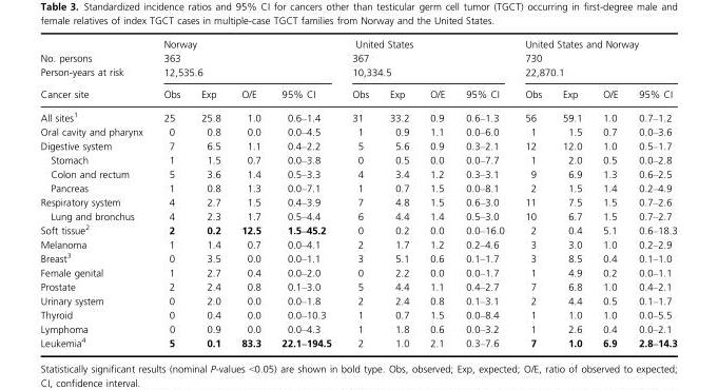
<table><thead><tr><td rowspan="4">No. persons Person-years at risk Cancer site</td><td rowspan="3" colspan="4">Norway 363 12,535.6</td><td rowspan="3" colspan="4">United States 367 10,334.5</td><td rowspan="3" colspan="4">United States and Norway 730 22,870.1</td></tr><tr></tr><tr></tr><tr><td>Obs</td><td>Exp</td><td>O/E</td><td>95% CI</td><td>Obs</td><td>Exp</td><td>O/E</td><td>95% CI</td><td>Obs</td><td>Exp</td><td>O/E</td><td>95% CI</td></tr></thead><tbody><tr><td>All sites<sup>1</sup></td><td>25</td><td>25.8</td><td>1.0</td><td>0.6–1.4</td><td>31</td><td>33.2</td><td>0.9</td><td>0.6–1.3</td><td>56</td><td>59.1</td><td>1.0</td><td>0.7–1.2</td></tr><tr><td>Oral cavity and pharynx</td><td>0</td><td>0.8</td><td>0.0</td><td>0.0–4.5</td><td>1</td><td>0.9</td><td>1.1</td><td>0.0–6.0</td><td>1</td><td>1.5</td><td>0.7</td><td>0.0–3.6</td></tr><tr><td>Digestive system</td><td>7</td><td>6.5</td><td>1.1</td><td>0.4–2.2</td><td>5</td><td>5.6</td><td>0.9</td><td>0.3–2.1</td><td>12</td><td>12.0</td><td>1.0</td><td>0.5–1.7</td></tr><tr><td>Stomach</td><td>1</td><td>1.5</td><td>0.7</td><td>0.0–3.8</td><td>0</td><td>0.5</td><td>0.0</td><td>0.0–7.7</td><td>1</td><td>2.0</td><td>0.5</td><td>0.0–2.8</td></tr><tr><td>Colon and rectum</td><td>5</td><td>3.6</td><td>1.4</td><td>0.5–3.3</td><td>4</td><td>3.4</td><td>1.2</td><td>0.3–3.1</td><td>9</td><td>6.9</td><td>1.3</td><td>0.6–2.5</td></tr><tr><td>Pancreas</td><td>1</td><td>0.8</td><td>1.3</td><td>0.0–7.1</td><td>1</td><td>0.7</td><td>1.5</td><td>0.0–8.1</td><td>2</td><td>1.5</td><td>1.4</td><td>0.2–4.9</td></tr><tr><td>Respiratory system</td><td>4</td><td>2.7</td><td>1.5</td><td>0.4–3.9</td><td>7</td><td>4.8</td><td>1.5</td><td>0.6–3.0</td><td>11</td><td>7.5</td><td>1.5</td><td>0.7–2.6</td></tr><tr><td>Lung and bronchus</td><td>4</td><td>2.3</td><td>1.7</td><td>0.5–4.4</td><td>6</td><td>4.4</td><td>1.4</td><td>0.5–3.0</td><td>10</td><td>6.7</td><td>1.5</td><td>0.7–2.7</td></tr><tr><td>Soft tissue<sup>2</sup></td><td>2</td><td>0.2</td><td>12.5</td><td>1.5–45.2</td><td>0</td><td>0.2</td><td>0.0</td><td>0.0–16.0</td><td>2</td><td>0.4</td><td>5.1</td><td>0.6–18.3</td></tr><tr><td>Melanoma</td><td>1</td><td>1.4</td><td>0.7</td><td>0.0–4.1</td><td>2</td><td>1.7</td><td>1.2</td><td>0.2–4.6</td><td>3</td><td>3.0</td><td>1.0</td><td>0.2–2.9</td></tr><tr><td>Breast<sup>3</sup></td><td>0</td><td>3.5</td><td>0.0</td><td>0.0–1.1</td><td>3</td><td>5.1</td><td>0.6</td><td>0.1–1.7</td><td>3</td><td>8.5</td><td>0.4</td><td>0.1–1.0</td></tr><tr><td>Female genital</td><td>1</td><td>2.7</td><td>0.4</td><td>0.0–2.0</td><td>0</td><td>2.2</td><td>0.0</td><td>0.0–1.7</td><td>1</td><td>4.9</td><td>0.2</td><td>0.0–1.1</td></tr><tr><td>Prostate</td><td>2</td><td>2.4</td><td>0.8</td><td>0.1–3.0</td><td>5</td><td>4.4</td><td>1.1</td><td>0.4–2.7</td><td>7</td><td>6.8</td><td>1.0</td><td>0.4–2.1</td></tr><tr><td>Urinary system</td><td>0</td><td>2.0</td><td>0.0</td><td>0.0–1.8</td><td>2</td><td>2.4</td><td>0.8</td><td>0.1–3.1</td><td>2</td><td>4.4</td><td>0.5</td><td>0.1–1.7</td></tr><tr><td>Thyroid</td><td>0</td><td>0.4</td><td>0.0</td><td>0.0–10.3</td><td>1</td><td>0.7</td><td>1.5</td><td>0.0–8.4</td><td>1</td><td>1.0</td><td>1.0</td><td>0.0–5.5</td></tr><tr><td>Lymphoma</td><td>0</td><td>0.9</td><td>0.0</td><td>0.0–4.3</td><td>1</td><td>1.8</td><td>0.6</td><td>0.0–3.2</td><td>1</td><td>2.6</td><td>0.4</td><td>0.0–2.1</td></tr><tr><td>Leukemia<sup>4</sup></td><td>5</td><td>0.1</td><td>83.3</td><td>22.1–194.5</td><td>2</td><td>1.0</td><td>2.1</td><td>0.3–7.6</td><td>7</td><td>1.0</td><td>6.9</td><td>2.8–14.3</td></tr></tbody></table>